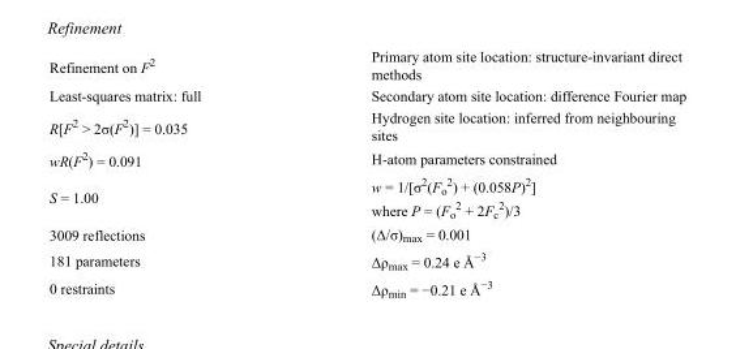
<table><tbody><tr><td>Refinement on F<sup>2</sup></td><td>Primary atom site location: structure-invariant direct methods</td></tr><tr><td>Least-squares matrix: full</td><td>Secondary atom site location: difference Fourier map</td></tr><tr><td>R[F<sup>2</sup> &gt; 2σ(F<sup>2</sup>)] = 0.035</td><td>Hydrogen site location: inferred from neighbouring sites</td></tr><tr><td>wR(F<sup>2</sup>) = 0.091</td><td>H-atom parameters constrained</td></tr><tr><td>S = 1.00</td><td>w = 1/[σ<sup>2</sup>(F<sub>o</sub> <sup>2</sup>) + (0.058P)<sup>2</sup>] where P = (F<sub>o</sub> <sup>2</sup> + 2F<sub>c</sub> <sup>2</sup>)/3</td></tr><tr><td>3009 reflections</td><td>(Δ/σ)<sub>max</sub> = 0.001</td></tr><tr><td>181 parameters</td><td>Δρ<sub>max</sub> = 0.24 e Å<sup>−3</sup></td></tr><tr><td>0 restraints</td><td>Δρ<sub>min</sub> = −0.21 e Å<sup>−3</sup></td></tr></tbody></table>